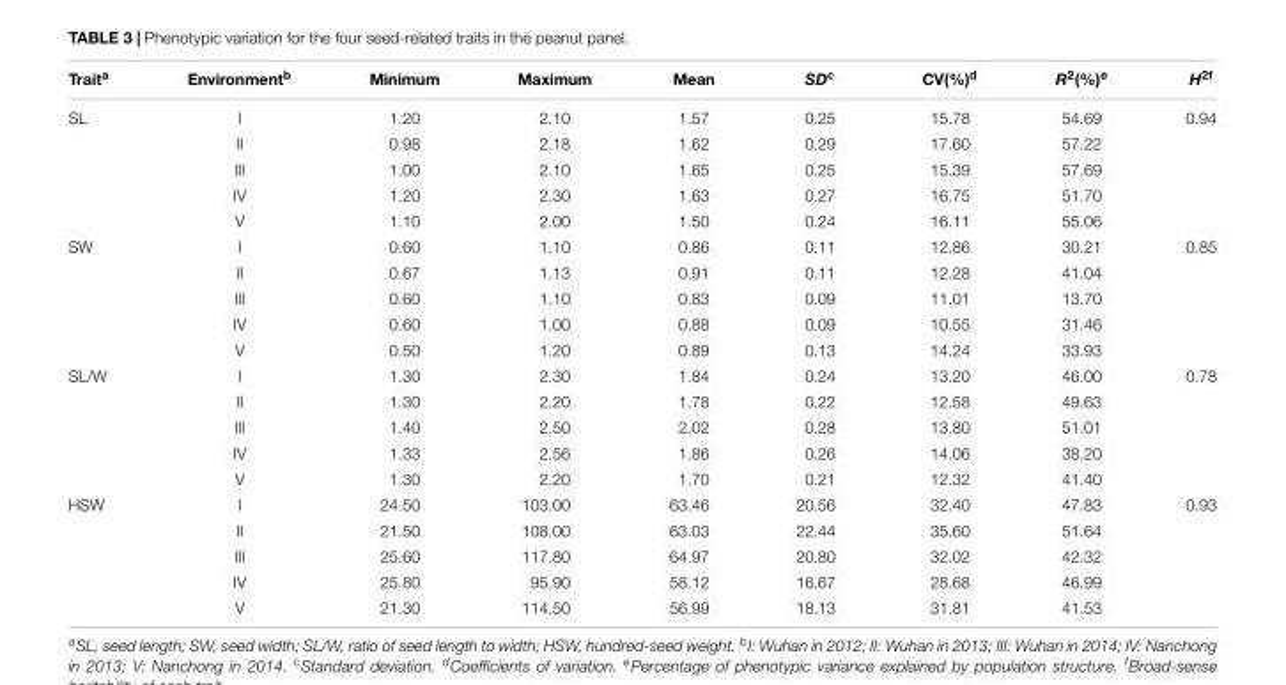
<table><thead><tr><td>Trait<sup>a</sup></td><td>Environment<sup>b</sup></td><td>Minimum</td><td>Maximum</td><td>Mean</td><td>SD<sup>c</sup></td><td>CV(%)<sup>d</sup></td><td>R<sup>2</sup>(%)<sup>e</sup></td><td>H<sup>2f</sup></td></tr></thead><tbody><tr><td rowspan="5">SL</td><td>I</td><td>1.20</td><td>2.10</td><td>1.57</td><td>0.25</td><td>15.78</td><td>54.69</td><td>0.94</td></tr><tr><td>II</td><td>0.98</td><td>2.18</td><td>1.62</td><td>0.29</td><td>17.60</td><td>57.22</td><td></td></tr><tr><td>III</td><td>1.00</td><td>2.10</td><td>1.65</td><td>0.25</td><td>15.39</td><td>57.69</td><td></td></tr><tr><td>IV</td><td>1.20</td><td>2.30</td><td>1.63</td><td>0.27</td><td>16.75</td><td>51.70</td><td></td></tr><tr><td>V</td><td>1.10</td><td>2.00</td><td>1.50</td><td>0.24</td><td>16.11</td><td>55.06</td><td></td></tr><tr><td rowspan="5">SW</td><td>I</td><td>0.60</td><td>1.10</td><td>0.86</td><td>0.11</td><td>12.86</td><td>30.21</td><td>0.85</td></tr><tr><td>II</td><td>0.67</td><td>1.13</td><td>0.91</td><td>0.11</td><td>12.28</td><td>41.04</td><td></td></tr><tr><td>III</td><td>0.60</td><td>1.10</td><td>0.83</td><td>0.09</td><td>11.01</td><td>13.70</td><td></td></tr><tr><td>IV</td><td>0.60</td><td>1.00</td><td>0.88</td><td>0.09</td><td>10.55</td><td>31.46</td><td></td></tr><tr><td>V</td><td>0.50</td><td>1.20</td><td>0.89</td><td>0.13</td><td>14.24</td><td>33.93</td><td></td></tr><tr><td rowspan="5">SL/W</td><td>I</td><td>1.30</td><td>2.30</td><td>1.84</td><td>0.24</td><td>13.20</td><td>46.00</td><td>0.78</td></tr><tr><td>II</td><td>1.30</td><td>2.20</td><td>1.78</td><td>0.22</td><td>12.58</td><td>49.63</td><td></td></tr><tr><td>III</td><td>1.40</td><td>2.50</td><td>2.02</td><td>0.28</td><td>13.80</td><td>51.01</td><td></td></tr><tr><td>IV</td><td>1.33</td><td>2.56</td><td>1.86</td><td>0.26</td><td>14.06</td><td>38.20</td><td></td></tr><tr><td>V</td><td>1.30</td><td>2.20</td><td>1.70</td><td>0.21</td><td>12.32</td><td>41.40</td><td></td></tr><tr><td rowspan="5">HSW</td><td>I</td><td>24.50</td><td>103.00</td><td>63.46</td><td>20.56</td><td>32.40</td><td>47.83</td><td>0.93</td></tr><tr><td>II</td><td>21.50</td><td>108.00</td><td>63.03</td><td>22.44</td><td>35.60</td><td>51.64</td><td></td></tr><tr><td>III</td><td>25.60</td><td>117.80</td><td>64.97</td><td>20.80</td><td>32.02</td><td>42.32</td><td></td></tr><tr><td>IV</td><td>25.80</td><td>95.90</td><td>58.12</td><td>16.67</td><td>28.68</td><td>46.99</td><td></td></tr><tr><td>V</td><td>21.30</td><td>114.50</td><td>56.99</td><td>18.13</td><td>31.81</td><td>41.53</td><td></td></tr></tbody></table>